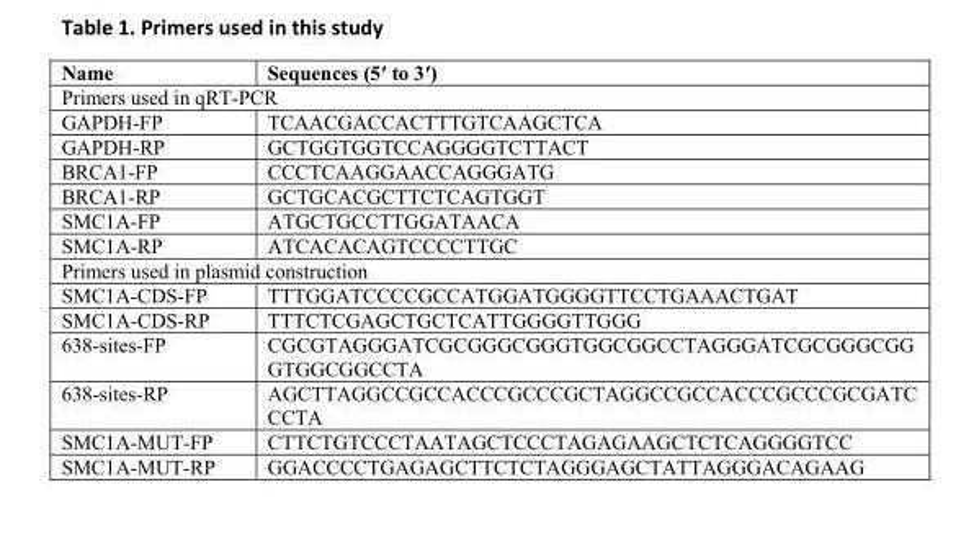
<table><thead><tr><td>Name</td><td>Sequences (5′ to 3′)</td></tr></thead><tbody><tr><td colspan="2">Primers used in qRT-PCR</td></tr><tr><td>GAPDH-FP</td><td>TCAACGACCACTTTGTCAAGCTCA</td></tr><tr><td>GAPDH-RP</td><td>GCTGGTGGTCCAGGGGTCTTACT</td></tr><tr><td>BRCA1-FP</td><td>CCCTCAAGGAACCAGGGATG</td></tr><tr><td>BRCA1-RP</td><td>GCTGCACGCTTCTCAGTGGT</td></tr><tr><td>SMC1A-FP</td><td>ATGCTGCCTTGGATAACA</td></tr><tr><td>SMC1A-RP</td><td>ATCACACAGTCCCCTTGC</td></tr><tr><td colspan="2">Primers used in plasmid construction</td></tr><tr><td>SMC1A-CDS-FP</td><td>TTTGGATCCCCGCCATGGATGGGGTTCCTGAAACTGAT</td></tr><tr><td>SMC1A-CDS-RP</td><td>TTTCTCGAGCTGCTCATTGGGGTTGGG</td></tr><tr><td>638-sites-FP</td><td>CGCGTAGGGATCGCGGGCGGGTGGCGGCCTAGGGATCGCGGGCGG GTGGCGGCCTA</td></tr><tr><td>638-sites-RP</td><td>AGCTTAGGCCGCCACCCGCCCGCTAGGCCGCCACCCGCCCGCGATC CCTA</td></tr><tr><td>SMC1A-MUT-FP</td><td>CTTCTGTCCCTAATAGCTCCCTAGAGAAGCTCTCAGGGGTCC</td></tr><tr><td>SMC1A-MUT-RP</td><td>GGACCCCTGAGAGCTTCTCTAGGGAGCTATTAGGGACAGAAG</td></tr></tbody></table>